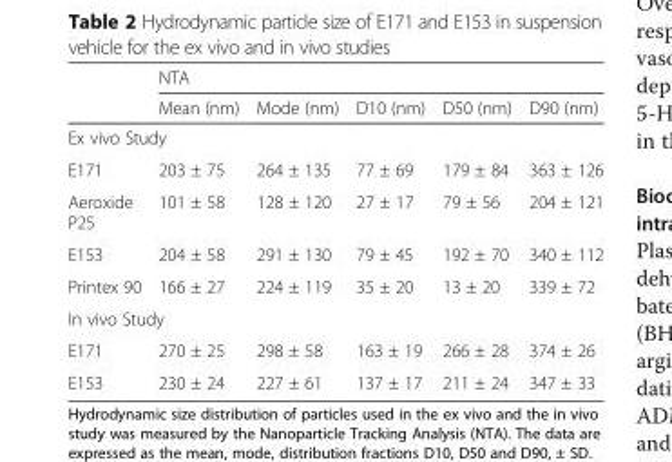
<table><thead><tr><td rowspan="2"></td><td colspan="5">NTA</td></tr><tr><td>Mean (nm)</td><td>Mode (nm)</td><td>D10 (nm)</td><td>D50 (nm)</td><td>D90 (nm)</td></tr></thead><tbody><tr><td colspan="6">Ex vivo Study</td></tr><tr><td>E171</td><td>203 ± 75</td><td>264 ± 135</td><td>77 ± 69</td><td>179 ± 84</td><td>363 ± 126</td></tr><tr><td>Aeroxide P25</td><td>101 ± 58</td><td>128 ± 120</td><td>27 ± 17</td><td>79 ± 56</td><td>204 ± 121</td></tr><tr><td>E153</td><td>204 ± 58</td><td>291 ± 130</td><td>79 ± 45</td><td>192 ± 70</td><td>340 ± 112</td></tr><tr><td>Printex 90</td><td>166 ± 27</td><td>224 ± 119</td><td>35 ± 20</td><td>13 ± 20</td><td>339 ± 72</td></tr><tr><td colspan="6">In vivo Study</td></tr><tr><td>E171</td><td>270 ± 25</td><td>298 ± 58</td><td>163 ± 19</td><td>266 ± 28</td><td>374 ± 26</td></tr><tr><td>E153</td><td>230 ± 24</td><td>227 ± 61</td><td>137 ± 17</td><td>211 ± 24</td><td>347 ± 33</td></tr></tbody></table>